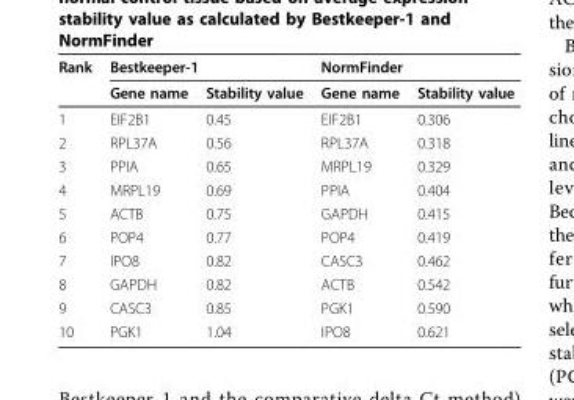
<table><thead><tr><td rowspan="2">Rank</td><td colspan="2">Bestkeeper-1</td><td colspan="2">NormFinder</td></tr><tr><td>Gene name</td><td>Stability value</td><td>Gene name</td><td>Stability value</td></tr></thead><tbody><tr><td>1</td><td>EIF2B1</td><td>0.45</td><td>EIF2B1</td><td>0.306</td></tr><tr><td>2</td><td>RPL37A</td><td>0.56</td><td>RPL37A</td><td>0.318</td></tr><tr><td>3</td><td>PPIA</td><td>0.65</td><td>MRPL19</td><td>0.329</td></tr><tr><td>4</td><td>MRPL19</td><td>0.69</td><td>PPIA</td><td>0.404</td></tr><tr><td>5</td><td>ACTB</td><td>0.75</td><td>GAPDH</td><td>0.415</td></tr><tr><td>6</td><td>POP4</td><td>0.77</td><td>POP4</td><td>0.419</td></tr><tr><td>7</td><td>IPO8</td><td>0.82</td><td>CASC3</td><td>0.462</td></tr><tr><td>8</td><td>GAPDH</td><td>0.82</td><td>ACTB</td><td>0.542</td></tr><tr><td>9</td><td>CASC3</td><td>0.85</td><td>PGK1</td><td>0.590</td></tr><tr><td>10</td><td>PGK1</td><td>1.04</td><td>IPO8</td><td>0.621</td></tr></tbody></table>